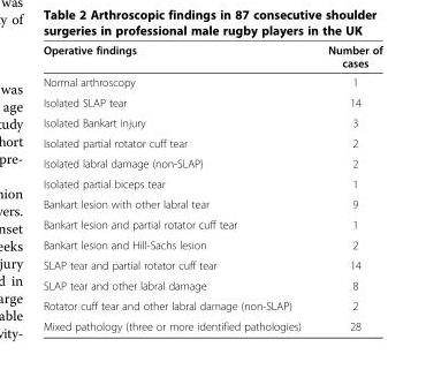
<table><thead><tr><td>Operative findings</td><td>Number of cases</td></tr></thead><tbody><tr><td>Normal arthroscopy</td><td>1</td></tr><tr><td>Isolated SLAP tear</td><td>14</td></tr><tr><td>Isolated Bankart injury</td><td>3</td></tr><tr><td>Isolated partial rotator cuff tear</td><td>2</td></tr><tr><td>Isolated labral damage (non-SLAP)</td><td>2</td></tr><tr><td>Isolated partial biceps tear</td><td>1</td></tr><tr><td>Bankart lesion with other labral tear</td><td>9</td></tr><tr><td>Bankart lesion and partial rotator cuff tear</td><td>1</td></tr><tr><td>Bankart lesion and Hill-Sachs lesion</td><td>2</td></tr><tr><td>SLAP tear and partial rotator cuff tear</td><td>14</td></tr><tr><td>SLAP tear and other labral damage</td><td>8</td></tr><tr><td>Rotator cuff tear and other labral damage (non-SLAP)</td><td>2</td></tr><tr><td>Mixed pathology (three or more identified pathologies)</td><td>28</td></tr></tbody></table>